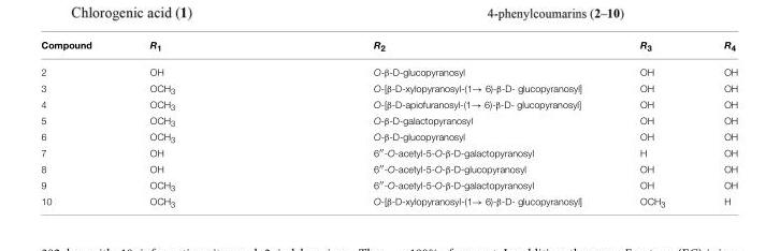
<table><tbody><tr><td>Compound</td><td>R<sub>1</sub></td><td>R<sub>2</sub></td><td>R<sub>3</sub></td><td>R<sub>4</sub></td></tr><tr><td>2</td><td>OH</td><td>O-β-D-glucopyranosyl</td><td>OH</td><td>OH</td></tr><tr><td>3</td><td>OCH<sub>3</sub></td><td>O-[β-D-xylopyranosyl-(1→ 6)-β-D- glucopyranosyl]</td><td>OH</td><td>OH</td></tr><tr><td>4</td><td>OCH<sub>3</sub></td><td>O-[β-D-apiofuranosyl-(1→ 6)-β-D- glucopyranosyl]</td><td>OH</td><td>OH</td></tr><tr><td>5</td><td>OCH<sub>3</sub></td><td>O-β-D-galactopyranosyl</td><td>OH</td><td>OH</td></tr><tr><td>6</td><td>OCH<sub>3</sub></td><td>O-β-D-glucopyranosyl</td><td>OH</td><td>OH</td></tr><tr><td>7</td><td>OH</td><td>6′′-O-acetyl-5-O-β-D-galactopyranosyl</td><td>H</td><td>OH</td></tr><tr><td>8</td><td>OH</td><td>6′′-O-acetyl-5-O-β-D-glucopyranosyl</td><td>OH</td><td>OH</td></tr><tr><td>9</td><td>OCH<sub>3</sub></td><td>6′′-O-acetyl-5-O-β-D-galactopyranosyl</td><td>OH</td><td>OH</td></tr><tr><td>10</td><td>OCH<sub>3</sub></td><td>O-[β-D-xylopyranosyl-(1→ 6)-β-D- glucopyranosyl]</td><td>OCH<sub>3</sub></td><td>H</td></tr></tbody></table>